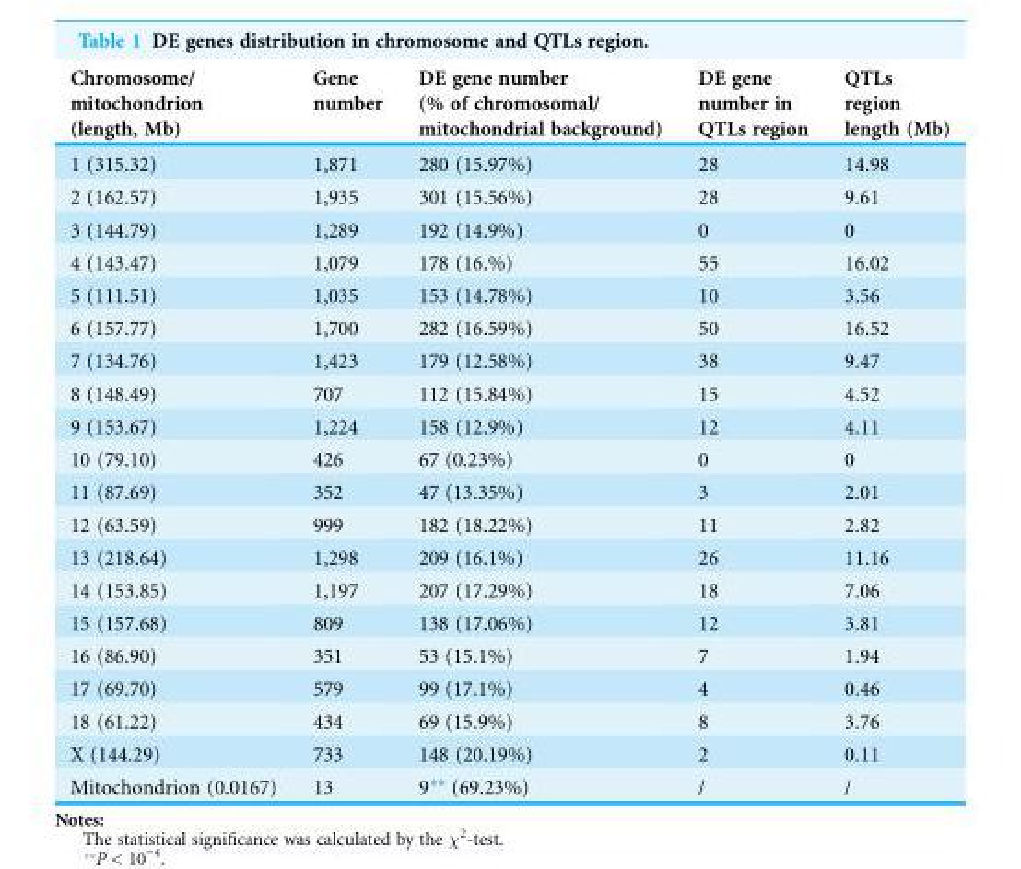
<table><thead><tr><td>Chromosome/ mitochondrion (length, Mb)</td><td>Gene number</td><td>DE gene number (% of chromosomal/ mitochondrial background)</td><td>DE gene number in QTLs region</td><td>QTLs region length (Mb)</td></tr></thead><tbody><tr><td>1 (315.32)</td><td>1,871</td><td>280 (15.97%)</td><td>28</td><td>14.98</td></tr><tr><td>2 (162.57)</td><td>1,935</td><td>301 (15.56%)</td><td>28</td><td>9.61</td></tr><tr><td>3 (144.79)</td><td>1,289</td><td>192 (14.9%)</td><td>0</td><td>0</td></tr><tr><td>4 (143.47)</td><td>1,079</td><td>178 (16.%)</td><td>55</td><td>16.02</td></tr><tr><td>5 (111.51)</td><td>1,035</td><td>153 (14.78%)</td><td>10</td><td>3.56</td></tr><tr><td>6 (157.77)</td><td>1,700</td><td>282 (16.59%)</td><td>50</td><td>16.52</td></tr><tr><td>7 (134.76)</td><td>1,423</td><td>179 (12.58%)</td><td>38</td><td>9.47</td></tr><tr><td>8 (148.49)</td><td>707</td><td>112 (15.84%)</td><td>15</td><td>4.52</td></tr><tr><td>9 (153.67)</td><td>1,224</td><td>158 (12.9%)</td><td>12</td><td>4.11</td></tr><tr><td>10 (79.10)</td><td>426</td><td>67 (0.23%)</td><td>0</td><td>0</td></tr><tr><td>11 (87.69)</td><td>352</td><td>47 (13.35%)</td><td>3</td><td>2.01</td></tr><tr><td>12 (63.59)</td><td>999</td><td>182 (18.22%)</td><td>11</td><td>2.82</td></tr><tr><td>13 (218.64)</td><td>1,298</td><td>209 (16.1%)</td><td>26</td><td>11.16</td></tr><tr><td>14 (153.85)</td><td>1,197</td><td>207 (17.29%)</td><td>18</td><td>7.06</td></tr><tr><td>15 (157.68)</td><td>809</td><td>138 (17.06%)</td><td>12</td><td>3.81</td></tr><tr><td>16 (86.90)</td><td>351</td><td>53 (15.1%)</td><td>7</td><td>1.94</td></tr><tr><td>17 (69.70)</td><td>579</td><td>99 (17.1%)</td><td>4</td><td>0.46</td></tr><tr><td>18 (61.22)</td><td>434</td><td>69 (15.9%)</td><td>8</td><td>3.76</td></tr><tr><td>X (144.29)</td><td>733</td><td>148 (20.19%)</td><td>2</td><td>0.11</td></tr><tr><td>Mitochondrion (0.0167)</td><td>13</td><td>9** (69.23%)</td><td>/</td><td>/</td></tr></tbody></table>